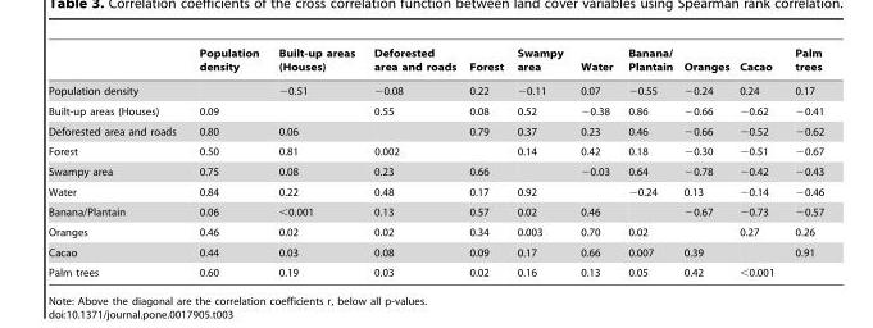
<table><thead><tr><td></td><td>Population density</td><td>Built-up areas (Houses)</td><td>Deforested area and roads</td><td>Forest</td><td>Swampy area</td><td>Water</td><td>Banana/ Plantain</td><td>Oranges</td><td>Cacao</td><td>Palm trees</td></tr></thead><tbody><tr><td>Population density</td><td></td><td>−0.51</td><td>−0.08</td><td>0.22</td><td>−0.11</td><td>0.07</td><td>−0.55</td><td>−0.24</td><td>0.24</td><td>0.17</td></tr><tr><td>Built-up areas (Houses)</td><td>0.09</td><td></td><td>0.55</td><td>0.08</td><td>0.52</td><td>−0.38</td><td>0.86</td><td>−0.66</td><td>−0.62</td><td>−0.41</td></tr><tr><td>Deforested area and roads</td><td>0.80</td><td>0.06</td><td></td><td>0.79</td><td>0.37</td><td>0.23</td><td>0.46</td><td>−0.66</td><td>−0.52</td><td>−0.62</td></tr><tr><td>Forest</td><td>0.50</td><td>0.81</td><td>0.002</td><td></td><td>0.14</td><td>0.42</td><td>0.18</td><td>−0.30</td><td>−0.51</td><td>−0.67</td></tr><tr><td>Swampy area</td><td>0.75</td><td>0.08</td><td>0.23</td><td>0.66</td><td></td><td>−0.03</td><td>0.64</td><td>−0.78</td><td>−0.42</td><td>−0.43</td></tr><tr><td>Water</td><td>0.84</td><td>0.22</td><td>0.48</td><td>0.17</td><td>0.92</td><td></td><td>−0.24</td><td>0.13</td><td>−0.14</td><td>−0.46</td></tr><tr><td>Banana/Plantain</td><td>0.06</td><td>&lt;0.001</td><td>0.13</td><td>0.57</td><td>0.02</td><td>0.46</td><td></td><td>−0.67</td><td>−0.73</td><td>−0.57</td></tr><tr><td>Oranges</td><td>0.46</td><td>0.02</td><td>0.02</td><td>0.34</td><td>0.003</td><td>0.70</td><td>0.02</td><td></td><td>0.27</td><td>0.26</td></tr><tr><td>Cacao</td><td>0.44</td><td>0.03</td><td>0.08</td><td>0.09</td><td>0.17</td><td>0.66</td><td>0.007</td><td>0.39</td><td></td><td>0.91</td></tr><tr><td>Palm trees</td><td>0.60</td><td>0.19</td><td>0.03</td><td>0.02</td><td>0.16</td><td>0.13</td><td>0.05</td><td>0.42</td><td>&lt;0.001</td><td></td></tr></tbody></table>